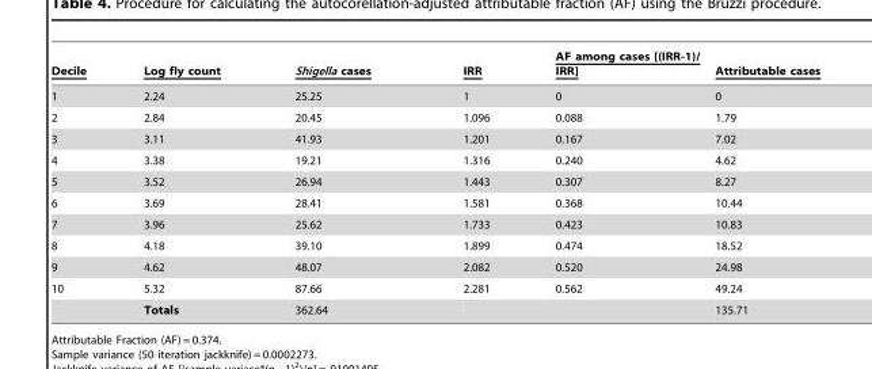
<table><thead><tr><td>Decile</td><td>Log fly count</td><td>Shigella cases</td><td>IRR</td><td>AF among cases [(IRR-1)/ IRR]</td><td>Attributable cases</td></tr></thead><tbody><tr><td>1</td><td>2.24</td><td>25.25</td><td>1</td><td>0</td><td>0</td></tr><tr><td>2</td><td>2.84</td><td>20.45</td><td>1.096</td><td>0.088</td><td>1.79</td></tr><tr><td>3</td><td>3.11</td><td>41.93</td><td>1.201</td><td>0.167</td><td>7.02</td></tr><tr><td>4</td><td>3.38</td><td>19.21</td><td>1.316</td><td>0.240</td><td>4.62</td></tr><tr><td>5</td><td>3.52</td><td>26.94</td><td>1.443</td><td>0.307</td><td>8.27</td></tr><tr><td>6</td><td>3.69</td><td>28.41</td><td>1.581</td><td>0.368</td><td>10.44</td></tr><tr><td>7</td><td>3.96</td><td>25.62</td><td>1.733</td><td>0.423</td><td>10.83</td></tr><tr><td>8</td><td>4.18</td><td>39.10</td><td>1.899</td><td>0.474</td><td>18.52</td></tr><tr><td>9</td><td>4.62</td><td>48.07</td><td>2.082</td><td>0.520</td><td>24.98</td></tr><tr><td rowspan="2">10</td><td>5.32</td><td>87.66</td><td>2.281</td><td>0.562</td><td>49.24</td></tr><tr><td>Totals</td><td>362.64</td><td></td><td></td><td>135.71</td></tr></tbody></table>